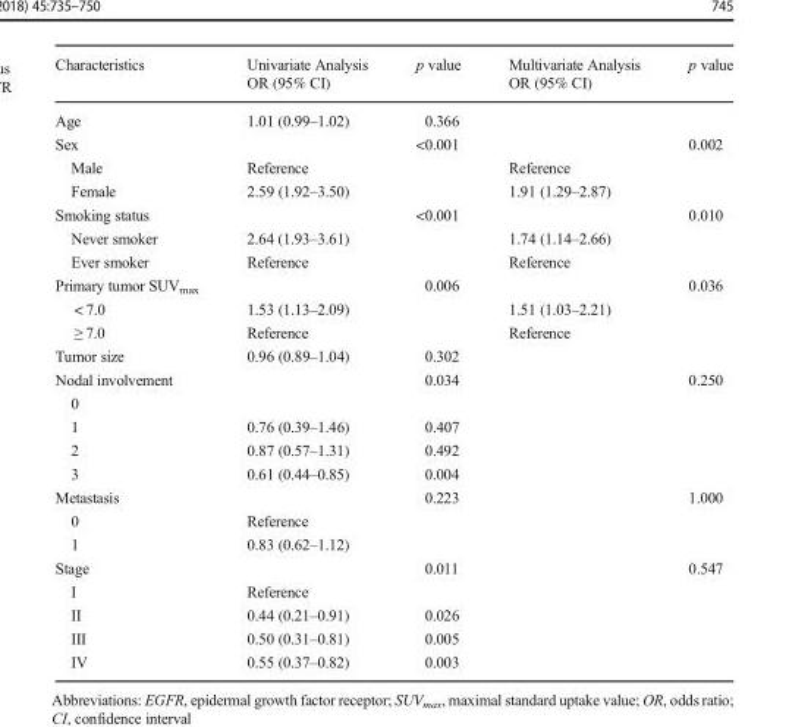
<table><thead><tr><td>Characteristics</td><td>Univariate Analysis OR (95% CI)</td><td>p value</td><td>Multivariate Analysis OR (95% CI)</td><td>p value</td></tr></thead><tbody><tr><td>Age</td><td>1.01 (0.99–1.02)</td><td>0.366</td><td></td><td></td></tr><tr><td>Sex</td><td></td><td>&lt;0.001</td><td></td><td>0.002</td></tr><tr><td>Male</td><td>Reference</td><td></td><td>Reference</td><td></td></tr><tr><td>Female</td><td>2.59 (1.92–3.50)</td><td></td><td>1.91 (1.29–2.87)</td><td></td></tr><tr><td>Smoking status</td><td></td><td>&lt;0.001</td><td></td><td>0.010</td></tr><tr><td>Never smoker</td><td>2.64 (1.93–3.61)</td><td></td><td>1.74 (1.14–2.66)</td><td></td></tr><tr><td>Ever smoker</td><td>Reference</td><td></td><td>Reference</td><td></td></tr><tr><td>Primary tumor SUV<sub>max</sub></td><td></td><td>0.006</td><td></td><td>0.036</td></tr><tr><td>&lt; 7.0</td><td>1.53 (1.13–2.09)</td><td></td><td>1.51 (1.03–2.21)</td><td></td></tr><tr><td>≥ 7.0</td><td>Reference</td><td></td><td>Reference</td><td></td></tr><tr><td>Tumor size</td><td>0.96 (0.89–1.04)</td><td>0.302</td><td></td><td></td></tr><tr><td>Nodal involvement</td><td></td><td>0.034</td><td></td><td>0.250</td></tr><tr><td colspan="5">0</td></tr><tr><td>1</td><td>0.76 (0.39–1.46)</td><td>0.407</td><td></td><td></td></tr><tr><td>2</td><td>0.87 (0.57–1.31)</td><td>0.492</td><td></td><td></td></tr><tr><td>3</td><td>0.61 (0.44–0.85)</td><td>0.004</td><td></td><td></td></tr><tr><td>Metastasis</td><td></td><td>0.223</td><td></td><td>1.000</td></tr><tr><td>0</td><td>Reference</td><td></td><td></td><td></td></tr><tr><td>1</td><td>0.83 (0.62–1.12)</td><td></td><td></td><td></td></tr><tr><td>Stage</td><td></td><td>0.011</td><td></td><td>0.547</td></tr><tr><td>I</td><td>Reference</td><td></td><td></td><td></td></tr><tr><td>II</td><td>0.44 (0.21–0.91)</td><td>0.026</td><td></td><td></td></tr><tr><td>III</td><td>0.50 (0.31–0.81)</td><td>0.005</td><td></td><td></td></tr><tr><td>IV</td><td>0.55 (0.37–0.82)</td><td>0.003</td><td></td><td></td></tr></tbody></table>